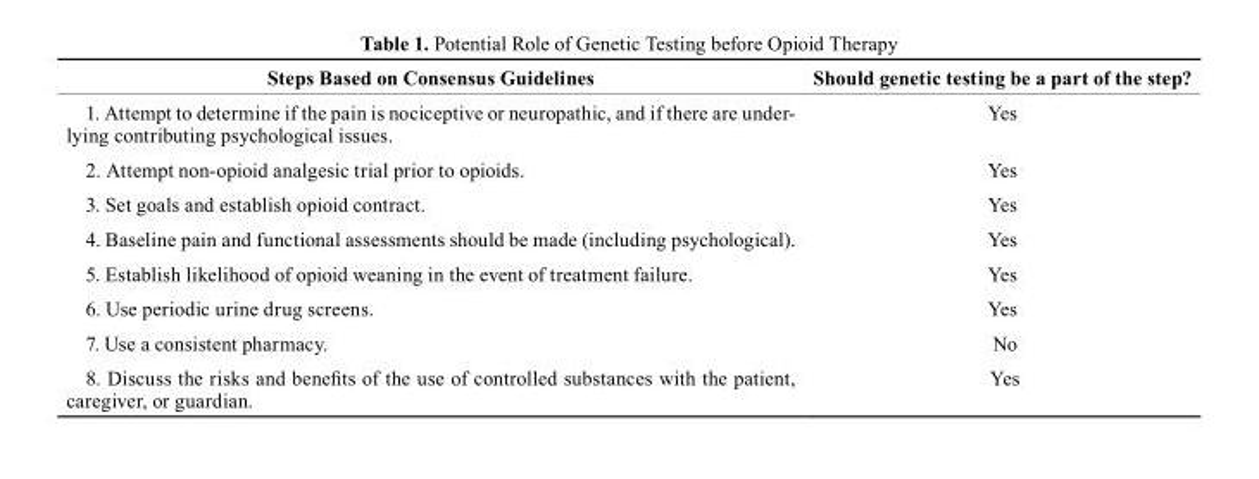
<table><thead><tr><td>steps based on consensus Guidelines</td><td>Should genetic testing be a part of the step?</td></tr></thead><tbody><tr><td>1. Attempt to determine if the pain is nociceptive or neuropathic, and if there are under- lying contributing psychological issues.</td><td>Yes</td></tr><tr><td>2. Attempt non-opioid analgesic trial prior to opioids.</td><td>Yes</td></tr><tr><td>3. Set goals and establish opioid contract.</td><td>Yes</td></tr><tr><td>4. Baseline pain and functional assessments should be made (including psychological).</td><td>Yes</td></tr><tr><td>5. Establish likelihood of opioid weaning in the event of treatment failure.</td><td>Yes</td></tr><tr><td>6. Use periodic urine drug screens.</td><td>Yes</td></tr><tr><td>7. Use a consistent pharmacy.</td><td>No</td></tr><tr><td>8. Discuss the risks and benefits of the use of controlled substances with the patient, caregiver, or guardian.</td><td>Yes</td></tr></tbody></table>